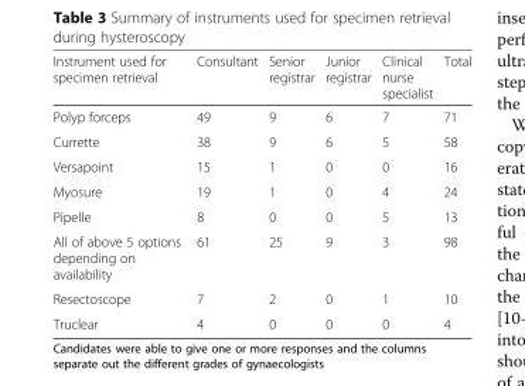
<table><thead><tr><td>Instrument used for specimen retrieval</td><td>Consultant</td><td>Senior registrar</td><td>Junior registrar</td><td>Clinical nurse specialist</td><td>Total</td></tr></thead><tbody><tr><td>Polyp forceps</td><td>49</td><td>9</td><td>6</td><td>7</td><td>71</td></tr><tr><td>Currette</td><td>38</td><td>9</td><td>6</td><td>5</td><td>58</td></tr><tr><td>Versapoint</td><td>15</td><td>1</td><td>0</td><td>0</td><td>16</td></tr><tr><td>Myosure</td><td>19</td><td>1</td><td>0</td><td>4</td><td>24</td></tr><tr><td>Pipelle</td><td>8</td><td>0</td><td>0</td><td>5</td><td>13</td></tr><tr><td>All of above 5 options depending on availability</td><td>61</td><td>25</td><td>9</td><td>3</td><td>98</td></tr><tr><td>Resectoscope</td><td>7</td><td>2</td><td>0</td><td>1</td><td>10</td></tr><tr><td>Truclear</td><td>4</td><td>0</td><td>0</td><td>0</td><td>4</td></tr></tbody></table>